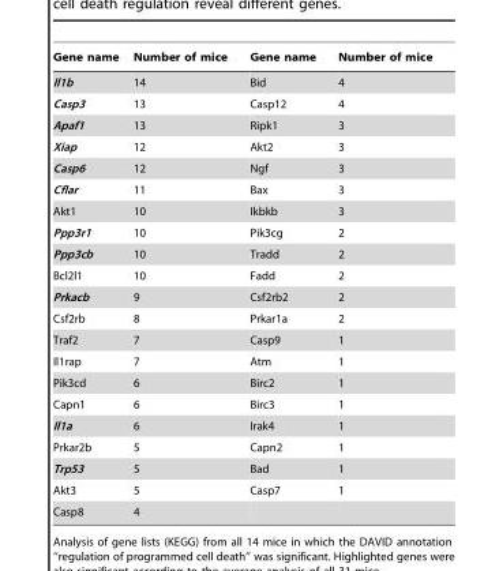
<table><thead><tr><td>Gene name</td><td>Number of mice</td><td>Gene name</td><td>Number of mice</td></tr></thead><tbody><tr><td>Il1b</td><td>14</td><td>Bid</td><td>4</td></tr><tr><td>Casp3</td><td>13</td><td>Casp12</td><td>4</td></tr><tr><td>Apaf1</td><td>13</td><td>Ripk1</td><td>3</td></tr><tr><td>Xiap</td><td>12</td><td>Akt2</td><td>3</td></tr><tr><td>Casp6</td><td>12</td><td>Ngf</td><td>3</td></tr><tr><td>Cflar</td><td>11</td><td>Bax</td><td>3</td></tr><tr><td>Akt1</td><td>10</td><td>Ikbkb</td><td>3</td></tr><tr><td>Ppp3r1</td><td>10</td><td>Pik3cg</td><td>2</td></tr><tr><td>Ppp3cb</td><td>10</td><td>Tradd</td><td>2</td></tr><tr><td>Bcl2l1</td><td>10</td><td>Fadd</td><td>2</td></tr><tr><td>Prkacb</td><td>9</td><td>Csf2rb2</td><td>2</td></tr><tr><td>Csf2rb</td><td>8</td><td>Prkar1a</td><td>2</td></tr><tr><td>Traf2</td><td>7</td><td>Casp9</td><td>1</td></tr><tr><td>Il1rap</td><td>7</td><td>Atm</td><td>1</td></tr><tr><td>Pik3cd</td><td>6</td><td>Birc2</td><td>1</td></tr><tr><td>Capn1</td><td>6</td><td>Birc3</td><td>1</td></tr><tr><td>Il1a</td><td>6</td><td>Irak4</td><td>1</td></tr><tr><td>Prkar2b</td><td>5</td><td>Capn2</td><td>1</td></tr><tr><td>Trp53</td><td>5</td><td>Bad</td><td>1</td></tr><tr><td>Akt3</td><td>5</td><td>Casp7</td><td>1</td></tr><tr><td>Casp8</td><td>4</td><td></td><td></td></tr></tbody></table>